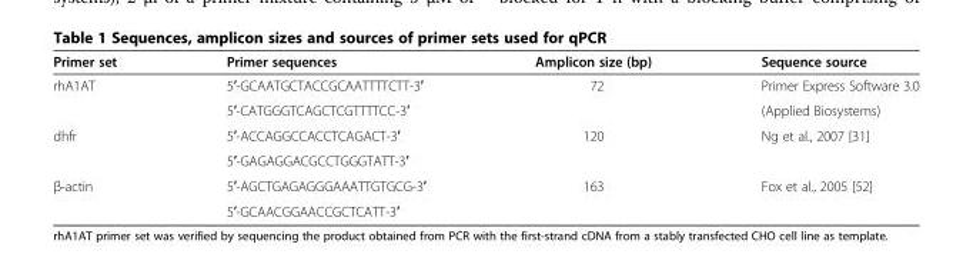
<table><thead><tr><td>Primer set</td><td>Primer sequences</td><td>Amplicon size (bp)</td><td>Sequence source</td></tr></thead><tbody><tr><td rowspan="2">rhA1AT</td><td>5′-GCAATGCTACCGCAATTTTCTT-3′</td><td rowspan="2">72</td><td>Primer Express Software 3.0</td></tr><tr><td>5′-CATGGGTCAGCTCGTTTTCC-3′</td><td>(Applied Biosystems)</td></tr><tr><td rowspan="2">dhfr</td><td>5′-ACCAGGCCACCTCAGACT-3′</td><td rowspan="2">120</td><td rowspan="2">Ng et al., 2007 [31]</td></tr><tr><td>5′-GAGAGGACGCCTGGGTATT-3′</td></tr><tr><td rowspan="2">β-actin</td><td>5′-AGCTGAGAGGGAAATTGTGCG-3′</td><td rowspan="2">163</td><td rowspan="2">Fox et al., 2005 [52]</td></tr><tr><td>5′-GCAACGGAACCGCTCATT-3′</td></tr></tbody></table>